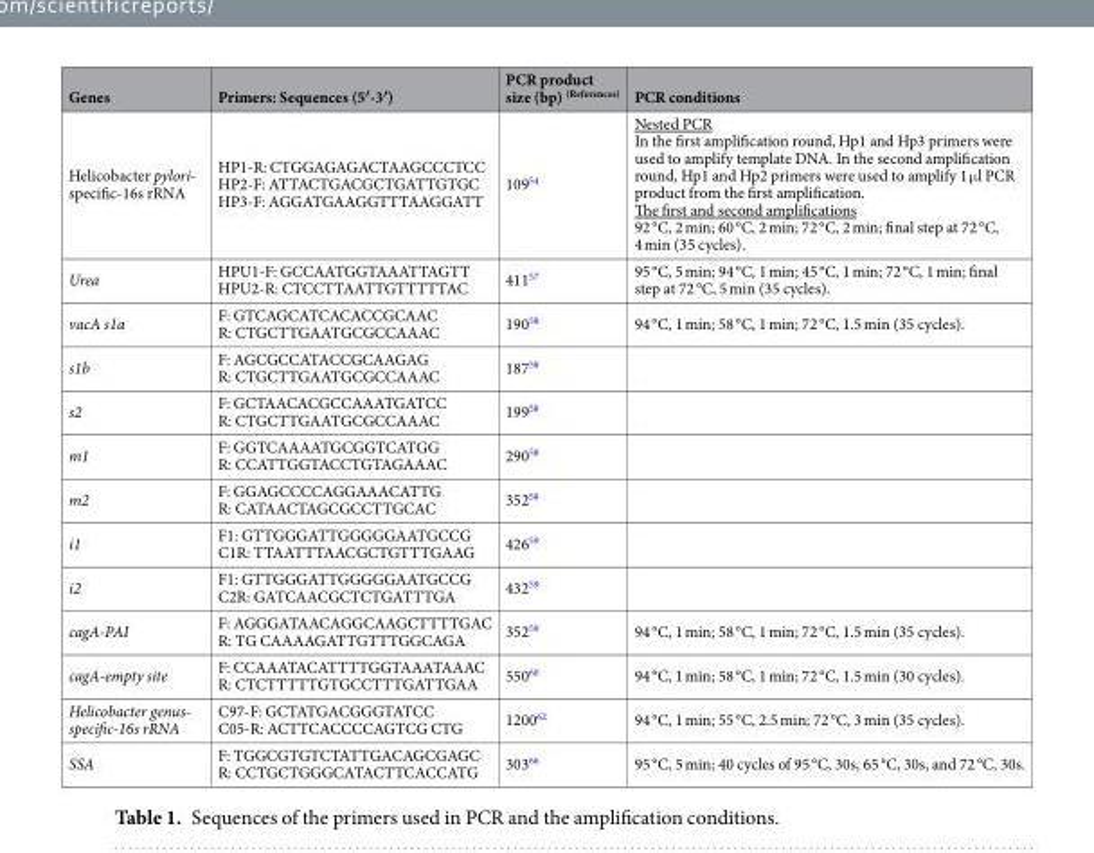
<table><thead><tr><td>Genes</td><td>Primers: Sequences (5′-3′)</td><td>PCR product size (bp) <sup>(References)</sup></td><td>PCR conditions</td></tr></thead><tbody><tr><td>Helicobacter pylori- specific-16s rRNA</td><td>HP1-R: CTGGAGAGACTAAGCCCTCC HP2-F: ATTACTGACGCTGATTGTGC HP3-F: AGGATGAAGGTTTAAGGATT</td><td>109<sup>54</sup></td><td>Nested PCR In the first amplification round, Hp1 and Hp3 primers were used to amplify template DNA. In the second amplification round, Hp1 and Hp2 primers were used to amplify 1 μl PCR product from the first amplification. The first and second amplifications 92 °C, 2 min; 60 °C, 2 min; 72 °C, 2 min; final step at 72 °C, 4 min (35 cycles).</td></tr><tr><td>Urea</td><td>HPU1-F: GCCAATGGTAAATTAGTT HPU2-R: CTCCTTAATTGTTTTTAC</td><td>411<sup>57</sup></td><td>95 °C, 5 min; 94 °C, 1 min; 45 °C, 1 min; 72 °C, 1 min; final step at 72 °C, 5 min (35 cycles).</td></tr><tr><td>vacA s1a</td><td>F: GTCAGCATCACACCGCAAC R: CTGCTTGAATGCGCCAAAC</td><td>190<sup>58</sup></td><td>94 °C, 1 min; 58 °C, 1 min; 72 °C, 1.5 min (35 cycles).</td></tr><tr><td>s1b</td><td>F: AGCGCCATACCGCAAGAG R: CTGCTTGAATGCGCCAAAC</td><td>187<sup>58</sup></td><td></td></tr><tr><td>s2</td><td>F: GCTAACACGCCAAATGATCC R: CTGCTTGAATGCGCCAAAC</td><td>199<sup>58</sup></td><td></td></tr><tr><td>m1</td><td>F: GGTCAAAATGCGGTCATGG R: CCATTGGTACCTGTAGAAAC</td><td>290<sup>58</sup></td><td></td></tr><tr><td>m2</td><td>F: GGAGCCCCAGGAAACATTG R: CATAACTAGCGCCTTGCAC</td><td>352<sup>58</sup></td><td></td></tr><tr><td>i1</td><td>F1: GTTGGGATTGGGGGAATGCCG C1R: TTAATTTAACGCTGTTTGAAG</td><td>426<sup>59</sup></td><td></td></tr><tr><td>i2</td><td>F1: GTTGGGATTGGGGGAATGCCG C2R: GATCAACGCTCTGATTTGA</td><td>432<sup>59</sup></td><td></td></tr><tr><td>cagA-PAI</td><td>F: AGGGATAACAGGCAAGCTTTTGAC R: TG CAAAAGATTGTTTGGCAGA</td><td>352<sup>59</sup></td><td>94 °C, 1 min; 58 °C, 1 min; 72 °C, 1.5 min (35 cycles).</td></tr><tr><td>cagA-empty site</td><td>F: CCAAATACATTTTGGTAAATAAAC R: CTCTTTTTGTGCCTTTGATTGAA</td><td>550<sup>60</sup></td><td>94 °C, 1 min; 58 °C, 1 min; 72 °C, 1.5 min (30 cycles).</td></tr><tr><td>Helicobacter genus- specific-16s rRNA</td><td>C97-F: GCTATGACGGGTATCC C05-R: ACTTCACCCCAGTCG CTG</td><td>1200<sup>62</sup></td><td>94 °C, 1 min; 55 °C, 2.5 min; 72 °C, 3 min (35 cycles).</td></tr><tr><td>SSA</td><td>F: TGGCGTGTCTATTGACAGCGAGC R: CCTGCTGGGCATACTTCACCATG</td><td>303<sup>66</sup></td><td>95 °C, 5 min; 40 cycles of 95 °C, 30s, 65 °C, 30s, and 72 °C, 30s.</td></tr></tbody></table>